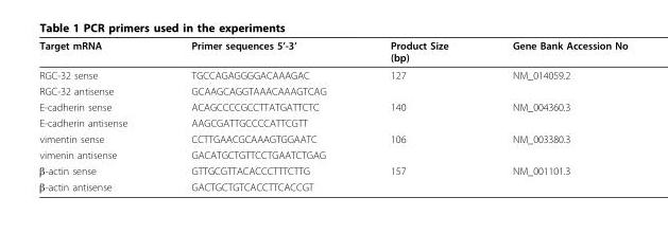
<table><thead><tr><td>Target mRNA</td><td>Primer sequences 5’-3’</td><td>Product Size (bp)</td><td>Gene Bank Accession No</td></tr></thead><tbody><tr><td>RGC-32 sense</td><td>TGCCAGAGGGGACAAAGAC</td><td>127</td><td>NM_014059.2</td></tr><tr><td>RGC-32 antisense</td><td>GCAAGCAGGTAAACAAAGTCAG</td><td></td><td></td></tr><tr><td>E-cadherin sense</td><td>ACAGCCCCGCCTTATGATTCTC</td><td>140</td><td>NM_004360.3</td></tr><tr><td>E-cadherin antisense</td><td>AAGCGATTGCCCCATTCGTT</td><td></td><td></td></tr><tr><td>vimentin sense</td><td>CCTTGAACGCAAAGTGGAATC</td><td>106</td><td>NM_003380.3</td></tr><tr><td>vimenin antisense</td><td>GACATGCTGTTCCTGAATCTGAG</td><td></td><td></td></tr><tr><td>β-actin sense</td><td>GTTGCGTTACACCCTTTCTTG</td><td>157</td><td>NM_001101.3</td></tr><tr><td>β-actin antisense</td><td>GACTGCTGTCACCTTCACCGT</td><td></td><td></td></tr></tbody></table>